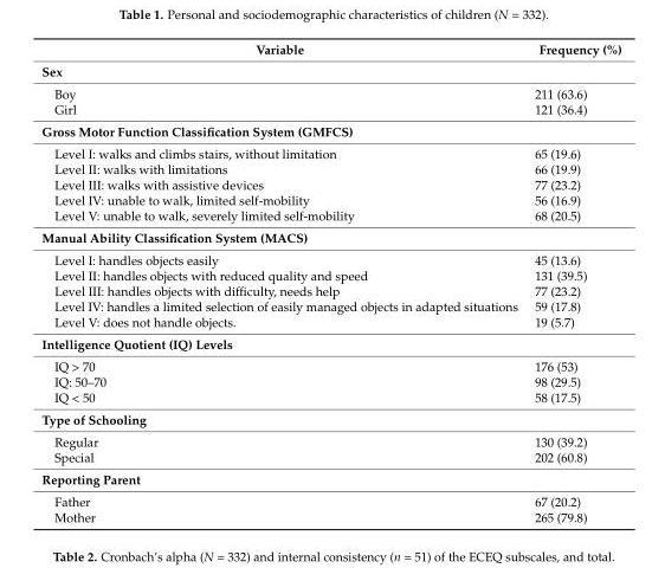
<table><thead><tr><td>Variable</td><td>Frequency (%)</td></tr></thead><tbody><tr><td colspan="2">Sex</td></tr><tr><td>Boy</td><td>211 (63.6)</td></tr><tr><td>Girl</td><td>121 (36.4)</td></tr><tr><td colspan="2">Gross Motor Function Classification System (GMFCS)</td></tr><tr><td>Level I: walks and climbs stairs, without limitation</td><td>65 (19.6)</td></tr><tr><td>Level II: walks with limitations</td><td>66 (19.9)</td></tr><tr><td>Level III: walks with assistive devices</td><td>77 (23.2)</td></tr><tr><td>Level IV: unable to walk, limited self-mobility</td><td>56 (16.9)</td></tr><tr><td>Level V: unable to walk, severely limited self-mobility</td><td>68 (20.5)</td></tr><tr><td colspan="2">Manual Ability Classification System (MACS)</td></tr><tr><td>Level I: handles objects easily</td><td>45 (13.6)</td></tr><tr><td>Level II: handles objects with reduced quality and speed</td><td>131 (39.5)</td></tr><tr><td>Level III: handles objects with difficulty, needs help</td><td>77 (23.2)</td></tr><tr><td>Level IV: handles a limited selection of easily managed objects in adapted situations</td><td>59 (17.8)</td></tr><tr><td>Level V: does not handle objects.</td><td>19 (5.7)</td></tr><tr><td colspan="2">Intelligence Quotient (IQ) Levels</td></tr><tr><td>IQ &gt; 70</td><td>176 (53)</td></tr><tr><td>IQ: 50–70</td><td>98 (29.5)</td></tr><tr><td>IQ &lt; 50</td><td>58 (17.5)</td></tr><tr><td colspan="2">Type of Schooling</td></tr><tr><td>Regular</td><td>130 (39.2)</td></tr><tr><td>Special</td><td>202 (60.8)</td></tr><tr><td colspan="2">Reporting Parent</td></tr><tr><td>Father</td><td>67 (20.2)</td></tr><tr><td>Mother</td><td>265 (79.8)</td></tr></tbody></table>